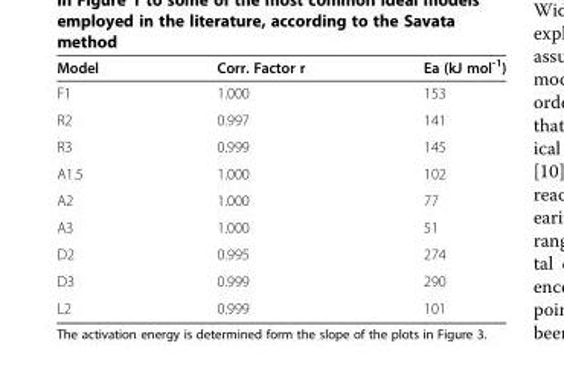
<table><thead><tr><td>Model</td><td>Corr. Factor r</td><td>Ea (kJ mol<sup>-1</sup>)</td></tr></thead><tbody><tr><td>F1</td><td>1.000</td><td>153</td></tr><tr><td>R2</td><td>0.997</td><td>141</td></tr><tr><td>R3</td><td>0.999</td><td>145</td></tr><tr><td>A1.5</td><td>1.000</td><td>102</td></tr><tr><td>A2</td><td>1.000</td><td>77</td></tr><tr><td>A3</td><td>1.000</td><td>51</td></tr><tr><td>D2</td><td>0.995</td><td>274</td></tr><tr><td>D3</td><td>0.999</td><td>290</td></tr><tr><td>L2</td><td>0.999</td><td>101</td></tr></tbody></table>